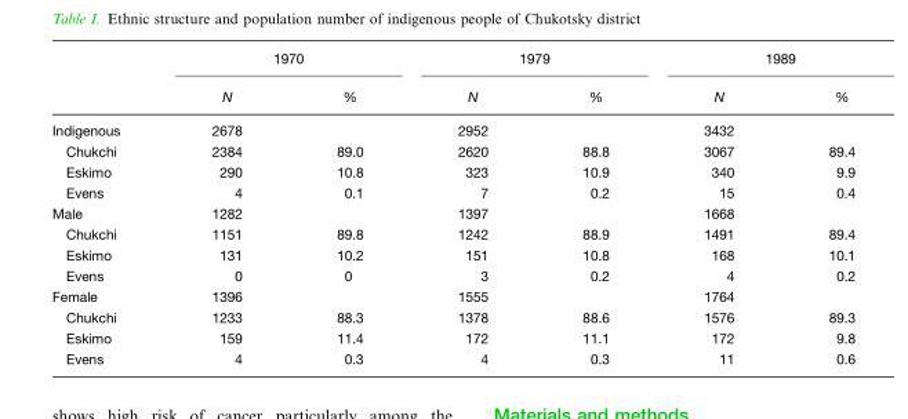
<table><thead><tr><td rowspan="2"></td><td colspan="2">1970</td><td colspan="2">1979</td><td colspan="2">1989</td></tr><tr><td>N</td><td>%</td><td>N</td><td>%</td><td>N</td><td>%</td></tr></thead><tbody><tr><td>Indigenous</td><td>2678</td><td></td><td>2952</td><td></td><td>3432</td><td></td></tr><tr><td>Chukchi</td><td>2384</td><td>89.0</td><td>2620</td><td>88.8</td><td>3067</td><td>89.4</td></tr><tr><td>Eskimo</td><td>290</td><td>10.8</td><td>323</td><td>10.9</td><td>340</td><td>9.9</td></tr><tr><td>Evens</td><td>4</td><td>0.1</td><td>7</td><td>0.2</td><td>15</td><td>0.4</td></tr><tr><td>Male</td><td>1282</td><td></td><td>1397</td><td></td><td>1668</td><td></td></tr><tr><td>Chukchi</td><td>1151</td><td>89.8</td><td>1242</td><td>88.9</td><td>1491</td><td>89.4</td></tr><tr><td>Eskimo</td><td>131</td><td>10.2</td><td>151</td><td>10.8</td><td>168</td><td>10.1</td></tr><tr><td>Evens</td><td>0</td><td>0</td><td>3</td><td>0.2</td><td>4</td><td>0.2</td></tr><tr><td>Female</td><td>1396</td><td></td><td>1555</td><td></td><td>1764</td><td></td></tr><tr><td>Chukchi</td><td>1233</td><td>88.3</td><td>1378</td><td>88.6</td><td>1576</td><td>89.3</td></tr><tr><td>Eskimo</td><td>159</td><td>11.4</td><td>172</td><td>11.1</td><td>172</td><td>9.8</td></tr><tr><td>Evens</td><td>4</td><td>0.3</td><td>4</td><td>0.3</td><td>11</td><td>0.6</td></tr></tbody></table>